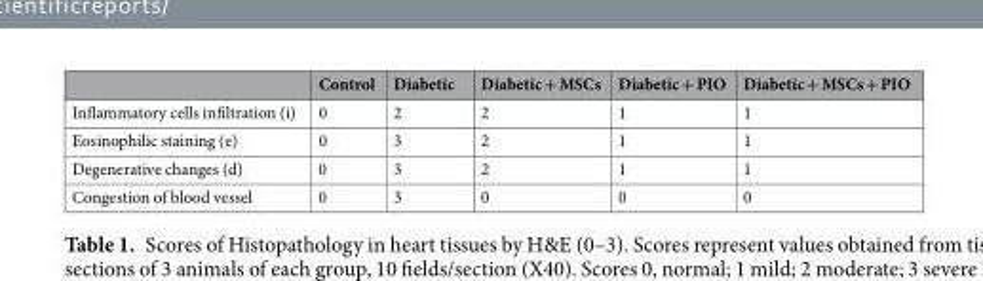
<table><thead><tr><td></td><td>Control</td><td>Diabetic</td><td>Diabetic + MSCs</td><td>Diabetic + PIO</td><td>Diabetic + MSCs + PIO</td></tr></thead><tbody><tr><td>Inflammatory cells infiltration (i)</td><td>0</td><td>2</td><td>2</td><td>1</td><td>1</td></tr><tr><td>Eosinophilic staining (e)</td><td>0</td><td>3</td><td>2</td><td>1</td><td>1</td></tr><tr><td>Degenerative changes (d)</td><td>0</td><td>3</td><td>2</td><td>1</td><td>1</td></tr><tr><td>Congestion of blood vessel</td><td>0</td><td>3</td><td>0</td><td>0</td><td>0</td></tr></tbody></table>